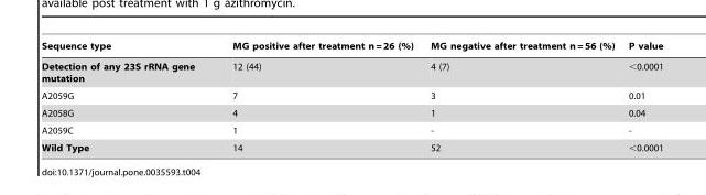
<table><thead><tr><td>Sequence type</td><td>MG positive after treatment n = 26 (%)</td><td>MG negative after treatment n = 56 (%)</td><td>P value</td></tr></thead><tbody><tr><td>Detection of any 23S rRNA gene mutation</td><td>12 (44)</td><td>4 (7)</td><td>&lt;0.0001</td></tr><tr><td>A2059G</td><td>7</td><td>3</td><td>0.01</td></tr><tr><td>A2058G</td><td>4</td><td>1</td><td>0.04</td></tr><tr><td>A2059C</td><td>1</td><td>-</td><td>-</td></tr><tr><td>Wild Type</td><td>14</td><td>52</td><td>&lt;0.0001</td></tr></tbody></table>